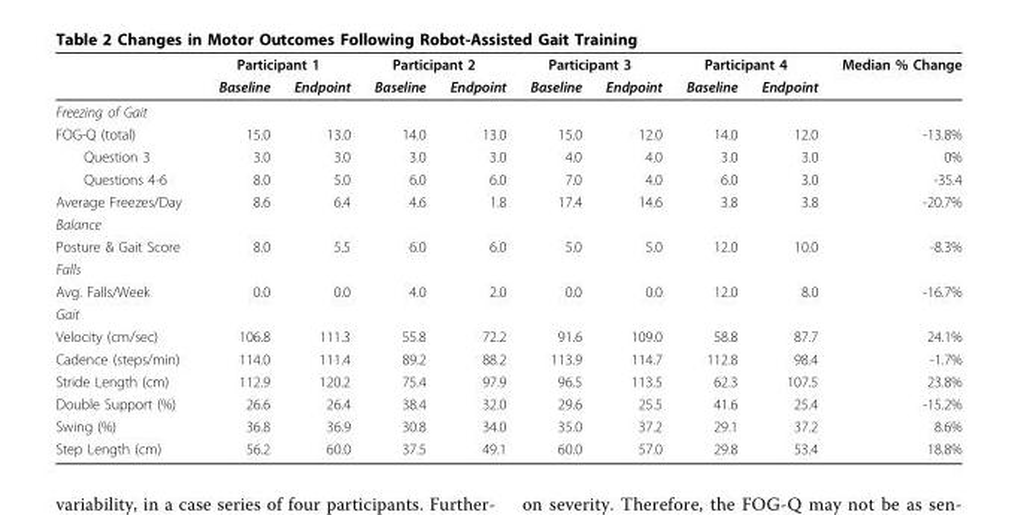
<table><thead><tr><td rowspan="2"></td><td colspan="2">Participant 1</td><td colspan="2">Participant 2</td><td colspan="2">Participant 3</td><td colspan="2">Participant 4</td><td rowspan="2">Median % Change</td></tr><tr><td>Baseline</td><td>Endpoint</td><td>Baseline</td><td>Endpoint</td><td>Baseline</td><td>Endpoint</td><td>Baseline</td><td>Endpoint</td></tr></thead><tbody><tr><td colspan="10">Freezing of Gait</td></tr><tr><td>FOG-Q (total)</td><td>15.0</td><td>13.0</td><td>14.0</td><td>13.0</td><td>15.0</td><td>12.0</td><td>14.0</td><td>12.0</td><td>-13.8%</td></tr><tr><td>Question 3</td><td>3.0</td><td>3.0</td><td>3.0</td><td>3.0</td><td>4.0</td><td>4.0</td><td>3.0</td><td>3.0</td><td>0%</td></tr><tr><td>Questions 4-6</td><td>8.0</td><td>5.0</td><td>6.0</td><td>6.0</td><td>7.0</td><td>4.0</td><td>6.0</td><td>3.0</td><td>-35.4</td></tr><tr><td>Average Freezes/Day</td><td>8.6</td><td>6.4</td><td>4.6</td><td>1.8</td><td>17.4</td><td>14.6</td><td>3.8</td><td>3.8</td><td>-20.7%</td></tr><tr><td colspan="10">Balance</td></tr><tr><td>Posture &amp; Gait Score</td><td>8.0</td><td>5.5</td><td>6.0</td><td>6.0</td><td>5.0</td><td>5.0</td><td>12.0</td><td>10.0</td><td>-8.3%</td></tr><tr><td colspan="10">Falls</td></tr><tr><td>Avg. Falls/Week</td><td>0.0</td><td>0.0</td><td>4.0</td><td>2.0</td><td>0.0</td><td>0.0</td><td>12.0</td><td>8.0</td><td>-16.7%</td></tr><tr><td colspan="10">Gait</td></tr><tr><td>Velocity (cm/sec)</td><td>106.8</td><td>111.3</td><td>55.8</td><td>72.2</td><td>91.6</td><td>109.0</td><td>58.8</td><td>87.7</td><td>24.1%</td></tr><tr><td>Cadence (steps/min)</td><td>114.0</td><td>111.4</td><td>89.2</td><td>88.2</td><td>113.9</td><td>114.7</td><td>112.8</td><td>98.4</td><td>-1.7%</td></tr><tr><td>Stride Length (cm)</td><td>112.9</td><td>120.2</td><td>75.4</td><td>97.9</td><td>96.5</td><td>113.5</td><td>62.3</td><td>107.5</td><td>23.8%</td></tr><tr><td>Double Support (%)</td><td>26.6</td><td>26.4</td><td>38.4</td><td>32.0</td><td>29.6</td><td>25.5</td><td>41.6</td><td>25.4</td><td>-15.2%</td></tr><tr><td>Swing (%)</td><td>36.8</td><td>36.9</td><td>30.8</td><td>34.0</td><td>35.0</td><td>37.2</td><td>29.1</td><td>37.2</td><td>8.6%</td></tr><tr><td>Step Length (cm)</td><td>56.2</td><td>60.0</td><td>37.5</td><td>49.1</td><td>60.0</td><td>57.0</td><td>29.8</td><td>53.4</td><td>18.8%</td></tr></tbody></table>